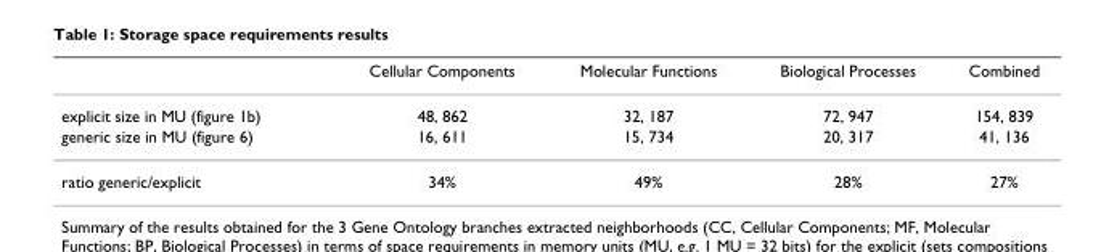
<table><thead><tr><td></td><td>Cellular Components</td><td>Molecular Functions</td><td>Biological Processes</td><td>Combined</td></tr></thead><tbody><tr><td>explicit size in MU (figure 1b)</td><td>48, 862</td><td>32, 187</td><td>72, 947</td><td>154, 839</td></tr><tr><td>generic size in MU (figure 6)</td><td>16, 611</td><td>15, 734</td><td>20, 317</td><td>41, 136</td></tr><tr><td>ratio generic/explicit</td><td>34%</td><td>49%</td><td>28%</td><td>27%</td></tr></tbody></table>